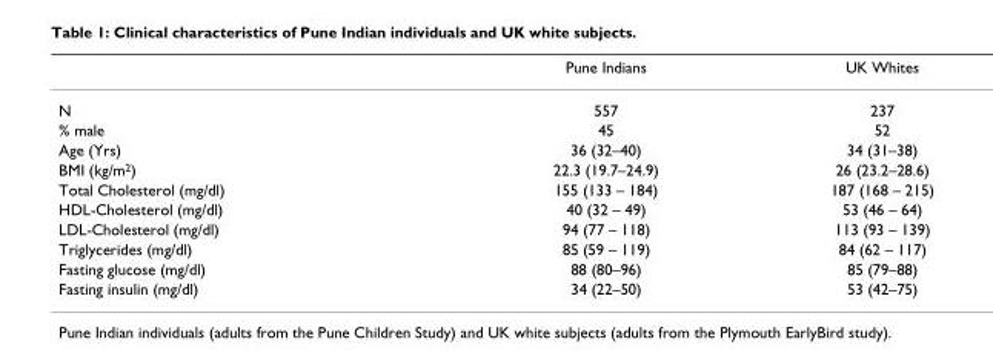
<table><thead><tr><td></td><td>Pune Indians</td><td>UK Whites</td></tr></thead><tbody><tr><td>N</td><td>557</td><td>237</td></tr><tr><td>% male</td><td>45</td><td>52</td></tr><tr><td>Age (Yrs)</td><td>36 (32–40)</td><td>34 (31–38)</td></tr><tr><td>BMI (kg/m<sup>2</sup>)</td><td>22.3 (19.7–24.9)</td><td>26 (23.2–28.6)</td></tr><tr><td>Total Cholesterol (mg/dl)</td><td>155 (133 – 184)</td><td>187 (168 – 215)</td></tr><tr><td>HDL-Cholesterol (mg/dl)</td><td>40 (32 – 49)</td><td>53 (46 – 64)</td></tr><tr><td>LDL-Cholesterol (mg/dl)</td><td>94 (77 – 118)</td><td>113 (93 – 139)</td></tr><tr><td>Triglycerides (mg/dl)</td><td>85 (59 – 119)</td><td>84 (62 – 117)</td></tr><tr><td>Fasting glucose (mg/dl)</td><td>88 (80–96)</td><td>85 (79–88)</td></tr><tr><td>Fasting insulin (mg/dl)</td><td>34 (22–50)</td><td>53 (42–75)</td></tr></tbody></table>